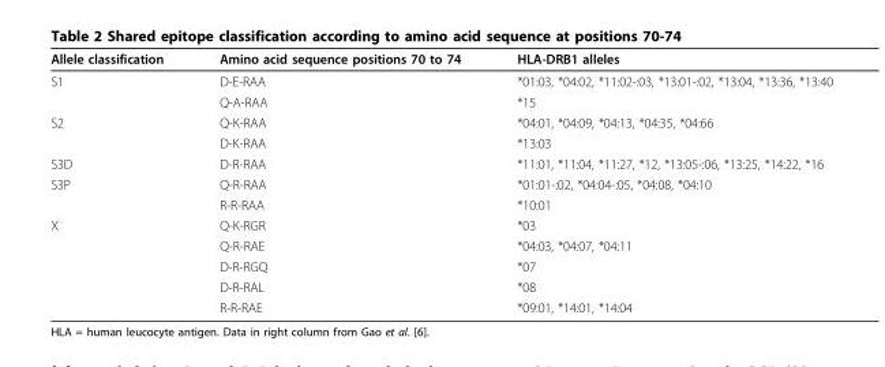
<table><thead><tr><td>Allele classification</td><td>Amino acid sequence positions 70 to 74</td><td>HLA-DRB1 alleles</td></tr></thead><tbody><tr><td rowspan="2">S1</td><td>D-E-RAA</td><td>*01:03, *04:02, *11:02-:03, *13:01-:02, *13:04, *13:36, *13:40</td></tr><tr><td>Q-A-RAA</td><td>*15</td></tr><tr><td rowspan="2">S2</td><td>Q-K-RAA</td><td>*04:01, *04:09, *04:13, *04:35, *04:66</td></tr><tr><td>D-K-RAA</td><td>*13:03</td></tr><tr><td>S3D</td><td>D-R-RAA</td><td>*11:01, *11:04, *11:27, *12, *13:05-:06, *13:25, *14:22, *16</td></tr><tr><td rowspan="2">S3P</td><td>Q-R-RAA</td><td>*01:01-:02, *04:04-:05, *04:08, *04:10</td></tr><tr><td>R-R-RAA</td><td>*10:01</td></tr><tr><td rowspan="5">X</td><td>Q-K-RGR</td><td>*03</td></tr><tr><td>Q-R-RAE</td><td>*04:03, *04:07, *04:11</td></tr><tr><td>D-R-RGQ</td><td>*07</td></tr><tr><td>D-R-RAL</td><td>*08</td></tr><tr><td>R-R-RAE</td><td>*09:01, *14:01, *14:04</td></tr></tbody></table>